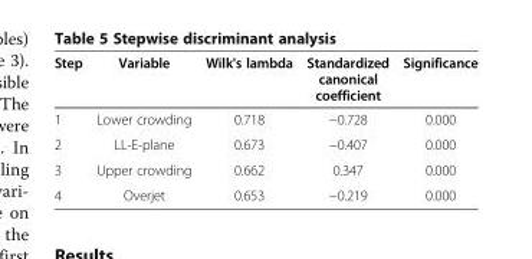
<table><thead><tr><td>Step</td><td>Variable</td><td>Wilk&#x27;s lambda</td><td>Standardized canonical coefficient</td><td>Significance</td></tr></thead><tbody><tr><td>1</td><td>Lower crowding</td><td>0.718</td><td>−0.728</td><td>0.000</td></tr><tr><td>2</td><td>LL-E-plane</td><td>0.673</td><td>−0.407</td><td>0.000</td></tr><tr><td>3</td><td>Upper crowding</td><td>0.662</td><td>0.347</td><td>0.000</td></tr><tr><td>4</td><td>Overjet</td><td>0.653</td><td>−0.219</td><td>0.000</td></tr></tbody></table>